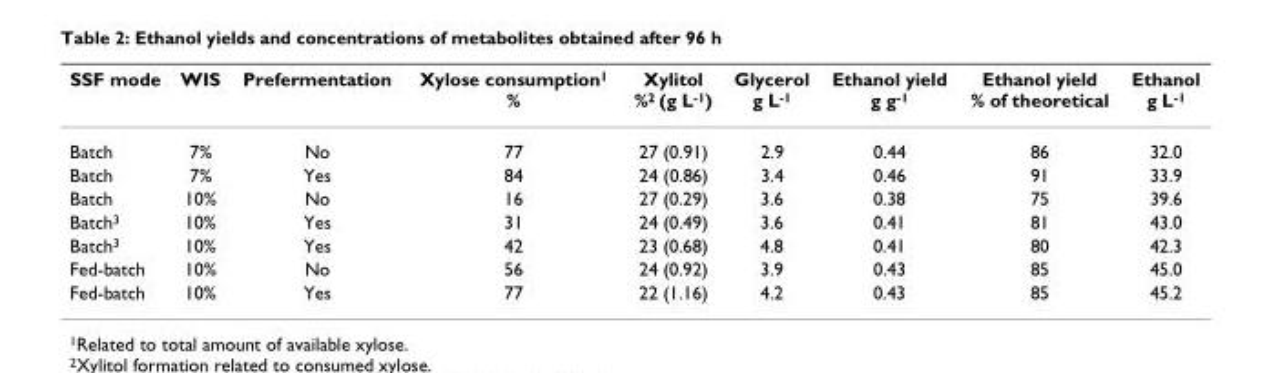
<table><thead><tr><td>SSF mode</td><td>WIS</td><td>Prefermentation</td><td>Xylose consumption<sup>1</sup> %</td><td>Xylitol %<sup>2</sup> (g L<sup>-1</sup>)</td><td>Glycerol g L<sup>-1</sup></td><td>Ethanol yield g g<sup>-1</sup></td><td>Ethanol yield % of theoretical</td><td>Ethanol g L<sup>-1</sup></td></tr></thead><tbody><tr><td>Batch</td><td>7%</td><td>No</td><td>77</td><td>27 (0.91)</td><td>2.9</td><td>0.44</td><td>86</td><td>32.0</td></tr><tr><td>Batch</td><td>7%</td><td>Yes</td><td>84</td><td>24 (0.86)</td><td>3.4</td><td>0.46</td><td>91</td><td>33.9</td></tr><tr><td>Batch</td><td>10%</td><td>No</td><td>16</td><td>27 (0.29)</td><td>3.6</td><td>0.38</td><td>75</td><td>39.6</td></tr><tr><td>Batch<sup>3</sup></td><td>10%</td><td>Yes</td><td>31</td><td>24 (0.49)</td><td>3.6</td><td>0.41</td><td>81</td><td>43.0</td></tr><tr><td>Batch<sup>3</sup></td><td>10%</td><td>Yes</td><td>42</td><td>23 (0.68)</td><td>4.8</td><td>0.41</td><td>80</td><td>42.3</td></tr><tr><td>Fed-batch</td><td>10%</td><td>No</td><td>56</td><td>24 (0.92)</td><td>3.9</td><td>0.43</td><td>85</td><td>45.0</td></tr><tr><td>Fed-batch</td><td>10%</td><td>Yes</td><td>77</td><td>22 (1.16)</td><td>4.2</td><td>0.43</td><td>85</td><td>45.2</td></tr></tbody></table>